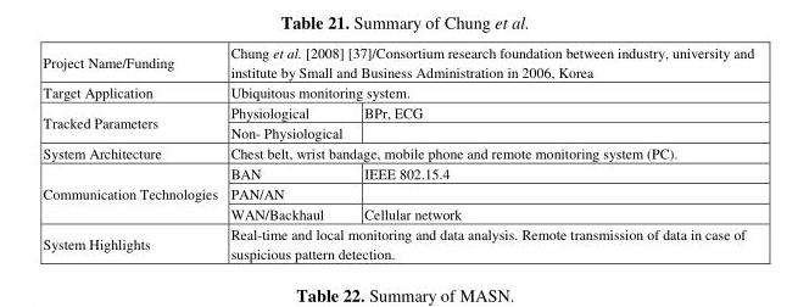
<table><tbody><tr><td>Project Name/Funding</td><td colspan="2">Chung et al. [2008] [37]/Consortium research foundation between industry, university and institute by Small and Business Administration in 2006, Korea</td></tr><tr><td>Target Application</td><td colspan="2">Ubiquitous monitoring system.</td></tr><tr><td rowspan="2">Tracked Parameters</td><td>Physiological</td><td>BPr, ECG</td></tr><tr><td>Non- Physiological</td><td></td></tr><tr><td>System Architecture</td><td colspan="2">Chest belt, wrist bandage, mobile phone and remote monitoring system (PC).</td></tr><tr><td rowspan="3">Communication Technologies</td><td>BAN</td><td>IEEE 802.15.4</td></tr><tr><td>PAN/AN</td><td></td></tr><tr><td>WAN/Backhaul</td><td>Cellular network</td></tr><tr><td>System Highlights</td><td colspan="2">Real-time and local monitoring and data analysis. Remote transmission of data in case of suspicious pattern detection.</td></tr></tbody></table>